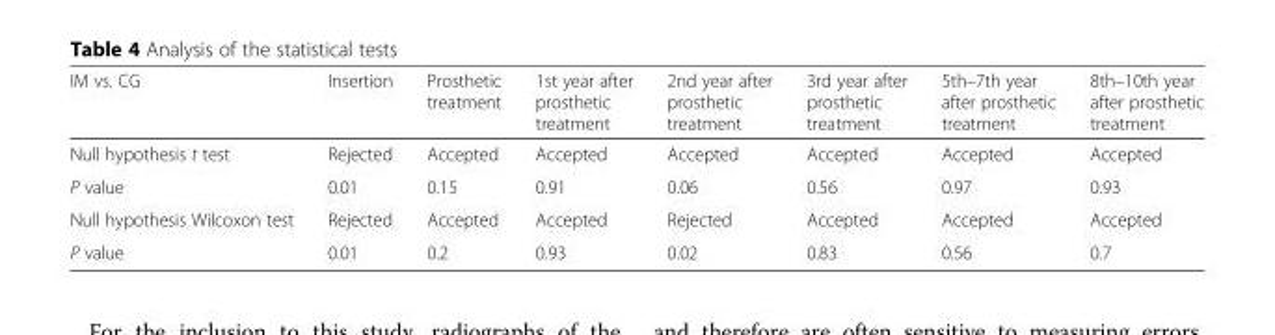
<table><thead><tr><td>IM vs. CG</td><td>Insertion</td><td>Prosthetic treatment</td><td>1st year after prosthetic treatment</td><td>2nd year after prosthetic treatment</td><td>3rd year after prosthetic treatment</td><td>5th–7th year after prosthetic treatment</td><td>8th–10th year after prosthetic treatment</td></tr></thead><tbody><tr><td>Null hypothesis t test</td><td>Rejected</td><td>Accepted</td><td>Accepted</td><td>Accepted</td><td>Accepted</td><td>Accepted</td><td>Accepted</td></tr><tr><td>P value</td><td>0.01</td><td>0.15</td><td>0.91</td><td>0.06</td><td>0.56</td><td>0.97</td><td>0.93</td></tr><tr><td>Null hypothesis Wilcoxon test</td><td>Rejected</td><td>Accepted</td><td>Accepted</td><td>Rejected</td><td>Accepted</td><td>Accepted</td><td>Accepted</td></tr><tr><td>P value</td><td>0.01</td><td>0.2</td><td>0.93</td><td>0.02</td><td>0.83</td><td>0.56</td><td>0.7</td></tr></tbody></table>